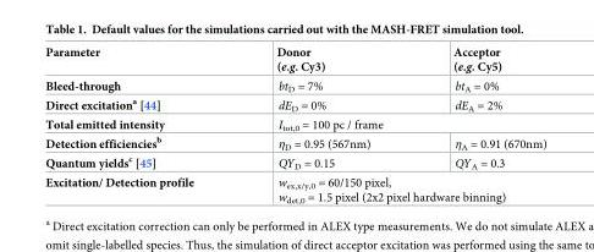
<table><thead><tr><td>Parameter</td><td>Donor (e.g. Cy3)</td><td>Acceptor (e.g. Cy5)</td></tr></thead><tbody><tr><td>Bleed-through</td><td>bt<sub>D</sub> = 7%</td><td>bt<sub>A</sub> = 0%</td></tr><tr><td>Direct excitation<sup>a</sup> [44]</td><td>dE<sub>D</sub> = 0%</td><td>dE<sub>A</sub> = 2%</td></tr><tr><td>Total emitted intensity</td><td colspan="2">I<sub>tot,0</sub> = 100 pc / frame</td></tr><tr><td>Detection efficiencies<sup>b</sup></td><td>η<sub>D</sub> = 0.95 (567nm)</td><td>η<sub>A</sub> = 0.91 (670nm)</td></tr><tr><td>Quantum yields<sup>c</sup> [45]</td><td>QY<sub>D</sub> = 0.15</td><td>QY<sub>A</sub> = 0.3</td></tr><tr><td>Excitation/ Detection profile</td><td colspan="2">w<sub>ex,x/y,0</sub> = 60/150 pixel, w<sub>det,0</sub> = 1.5 pixel (2x2 pixel hardware binning)</td></tr></tbody></table>